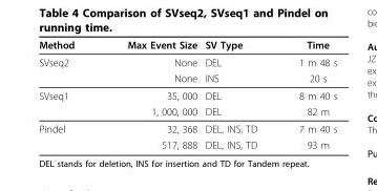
<table><thead><tr><td>Method</td><td>Max Event Size</td><td>SV Type</td><td>Time</td></tr></thead><tbody><tr><td rowspan="2">SVseq2</td><td>None</td><td>DEL</td><td>1 m 48 s</td></tr><tr><td>None</td><td>INS</td><td>20 s</td></tr><tr><td rowspan="2">SVseq1</td><td>35, 000</td><td>DEL</td><td>8 m 40 s</td></tr><tr><td>1, 000, 000</td><td>DEL</td><td>82 m</td></tr><tr><td rowspan="2">Pindel</td><td>32, 368</td><td>DEL, INS, TD</td><td>7 m 40 s</td></tr><tr><td>517, 888</td><td>DEL, INS, TD</td><td>93 m</td></tr></tbody></table>